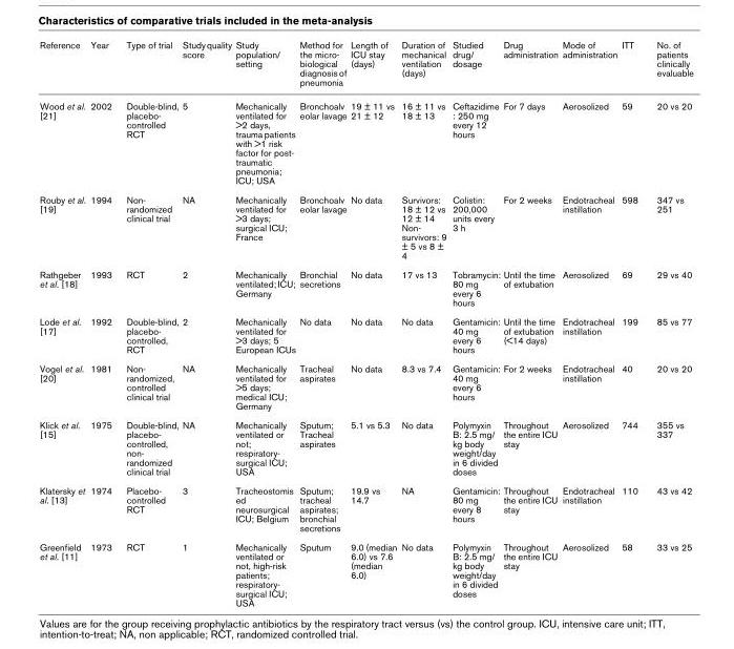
<table><thead><tr><td>Reference</td><td>Year</td><td>Type of trial</td><td>Study quality score</td><td>Study population/ setting</td><td>Method for the micro- biological diagnosis of pneumonia</td><td>Length of ICU stay (days)</td><td>Duration of mechanical ventilation (days)</td><td>Studied drug/ dosage</td><td>Drug administration</td><td>Mode of administration</td><td>ITT</td><td>No. of patients clinically evaluable</td></tr></thead><tbody><tr><td>Wood et al. [21]</td><td>2002</td><td>Double-blind, placebo- controlled RCT</td><td>5</td><td>Mechanically ventilated for &gt;2 days, trauma patients with &gt;1 risk factor for post- traumatic pneumonia; ICU; USA</td><td>Bronchoalv eolar lavage</td><td>19 ± 11 vs 21 ± 12</td><td>16 ± 11 vs 18 ± 13</td><td>Ceftazidime : 250 mg every 12 hours</td><td>For 7 days</td><td>Aerosolized</td><td>59</td><td>20 vs 20</td></tr><tr><td>Rouby et al. [19]</td><td>1994</td><td>Non- randomized clinical trial</td><td>NA</td><td>Mechanically ventilated for &gt;3 days; surgical ICU; France</td><td>Bronchoalv eolar lavage</td><td>No data</td><td>Survivors: 18 ± 12 vs 12 ± 14 Non- survivors: 9 ± 5 vs 8 ± 4</td><td>Colistin: 200,000 units every 3 h</td><td>For 2 weeks</td><td>Endotracheal instillation</td><td>598</td><td>347 vs 251</td></tr><tr><td>Rathgeber et al. [18]</td><td>1993</td><td>RCT</td><td>2</td><td>Mechanically ventilated; ICU; Germany</td><td>Bronchial secretions</td><td>No data</td><td>17 vs 13</td><td>Tobramycin: 80 mg every 6 hours</td><td>Until the time of extubation</td><td>Aerosolized</td><td>69</td><td>29 vs 40</td></tr><tr><td>Lode et al. [17]</td><td>1992</td><td>Double-blind, placebo- controlled, RCT</td><td>2</td><td>Mechanically ventilated for &gt;3 days; 5 European ICUs</td><td>No data</td><td>No data</td><td>No data</td><td>Gentamicin: 40 mg every 6 hours</td><td>Until the time of extubation (&lt;14 days)</td><td>Endotracheal instillation</td><td>199</td><td>85 vs 77</td></tr><tr><td>Vogel et al. [20]</td><td>1981</td><td>Non- randomized, controlled clinical trial</td><td>NA</td><td>Mechanically ventilated for &gt;5 days; medical ICU; Germany</td><td>Tracheal aspirates</td><td>No data</td><td>8.3 vs 7.4</td><td>Gentamicin: 40 mg every 6 hours</td><td>For 2 weeks</td><td>Endotracheal instillation</td><td>40</td><td>20 vs 20</td></tr><tr><td>Klick et al. [15]</td><td>1975</td><td>Double-blind, placebo- controlled, non- randomized clinical trial</td><td>NA</td><td>Mechanically ventilated or not; respiratory- surgical ICU; USA</td><td>Sputum; Tracheal aspirates</td><td>5.1 vs 5.3</td><td>No data</td><td>Polymyxin B: 2.5 mg/ kg body weight/day in 6 divided doses</td><td>Throughout the entire ICU stay</td><td>Aerosolized</td><td>744</td><td>355 vs 337</td></tr><tr><td>Klatersky et al. [13]</td><td>1974</td><td>Placebo- controlled RCT</td><td>3</td><td>Tracheostomis ed neurosurgical ICU; Belgium</td><td>Sputum; tracheal aspirates; bronchial secretions</td><td>19.9 vs 14.7</td><td>NA</td><td>Gentamicin: 80 mg every 8 hours</td><td>Throughout the entire ICU stay</td><td>Endotracheal instillation</td><td>110</td><td>43 vs 42</td></tr><tr><td>Greenfield et al. [11]</td><td>1973</td><td>RCT</td><td>1</td><td>Mechanically ventilated or not, high-risk patients; respiratory- surgical ICU; USA</td><td>Sputum</td><td>9.0 (median 6.0) vs 7.6 (median 6.0)</td><td>No data</td><td>Polymyxin B: 2.5 mg/ kg body weight/day in 6 divided doses</td><td>Throughout the entire ICU stay</td><td>Aerosolized</td><td>58</td><td>33 vs 25</td></tr></tbody></table>